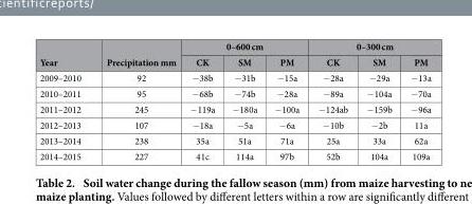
<table><thead><tr><td rowspan="2">Year</td><td rowspan="2">Precipitation mm</td><td colspan="3">0–600 cm</td><td colspan="3">0–300 cm</td></tr><tr><td>CK</td><td>SM</td><td>PM</td><td>CK</td><td>SM</td><td>PM</td></tr></thead><tbody><tr><td>2009–2010</td><td>92</td><td>− 38b</td><td>− 31b</td><td>− 15a</td><td>− 28a</td><td>− 29a</td><td>− 13a</td></tr><tr><td>2010–2011</td><td>95</td><td>− 68b</td><td>− 74b</td><td>− 28a</td><td>− 89a</td><td>− 104a</td><td>− 70a</td></tr><tr><td>2011–2012</td><td>245</td><td>− 119a</td><td>− 180a</td><td>− 100a</td><td>− 124ab</td><td>− 159b</td><td>− 96a</td></tr><tr><td>2012–2013</td><td>107</td><td>− 18a</td><td>− 5a</td><td>− 6a</td><td>− 10b</td><td>− 2b</td><td>11a</td></tr><tr><td>2013–2014</td><td>238</td><td>35a</td><td>51a</td><td>71a</td><td>25a</td><td>33a</td><td>62a</td></tr><tr><td>2014–2015</td><td>227</td><td>41c</td><td>114a</td><td>97b</td><td>52b</td><td>104a</td><td>109a</td></tr></tbody></table>